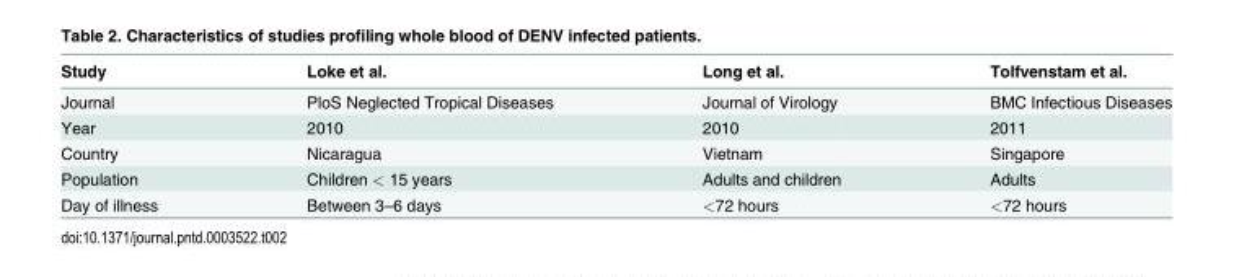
<table><thead><tr><td>Study</td><td>Loke et al.</td><td>Long et al.</td><td>Tolfvenstam et al.</td></tr></thead><tbody><tr><td>Journal</td><td>PloS Neglected Tropical Diseases</td><td>Journal of Virology</td><td>BMC Infectious Diseases</td></tr><tr><td>Year</td><td>2010</td><td>2010</td><td>2011</td></tr><tr><td>Country</td><td>Nicaragua</td><td>Vietnam</td><td>Singapore</td></tr><tr><td>Population</td><td>Children &lt; 15 years</td><td>Adults and children</td><td>Adults</td></tr><tr><td>Day of illness</td><td>Between 3–6 days</td><td>&lt;72 hours</td><td>&lt;72 hours</td></tr></tbody></table>